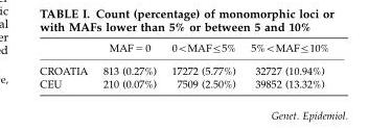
<table><thead><tr><td></td><td>MAF = 0</td><td>0&lt;MAF≤5%</td><td>5%&lt;MAF≤10%</td></tr></thead><tbody><tr><td>CROATIA</td><td>813 (0.27%)</td><td>17272 (5.77%)</td><td>32727 (10.94%)</td></tr><tr><td>CEU</td><td>210 (0.07%)</td><td>7509 (2.50%)</td><td>39852 (13.32%)</td></tr></tbody></table>